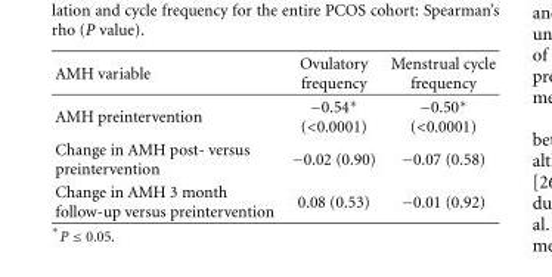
<table><thead><tr><td>AMH variable</td><td>Ovulatory frequency</td><td>Menstrual cycle frequency</td></tr></thead><tbody><tr><td>AMH preintervention</td><td>−0.54∗ (&lt;0.0001)</td><td>−0.50∗ (&lt;0.0001)</td></tr><tr><td>Change in AMH post- versus preintervention</td><td>−0.02 (0.90)</td><td>−0.07 (0.58)</td></tr><tr><td>Change in AMH 3 month follow-up versus preintervention</td><td>0.08 (0.53)</td><td>−0.01 (0.92)</td></tr></tbody></table>